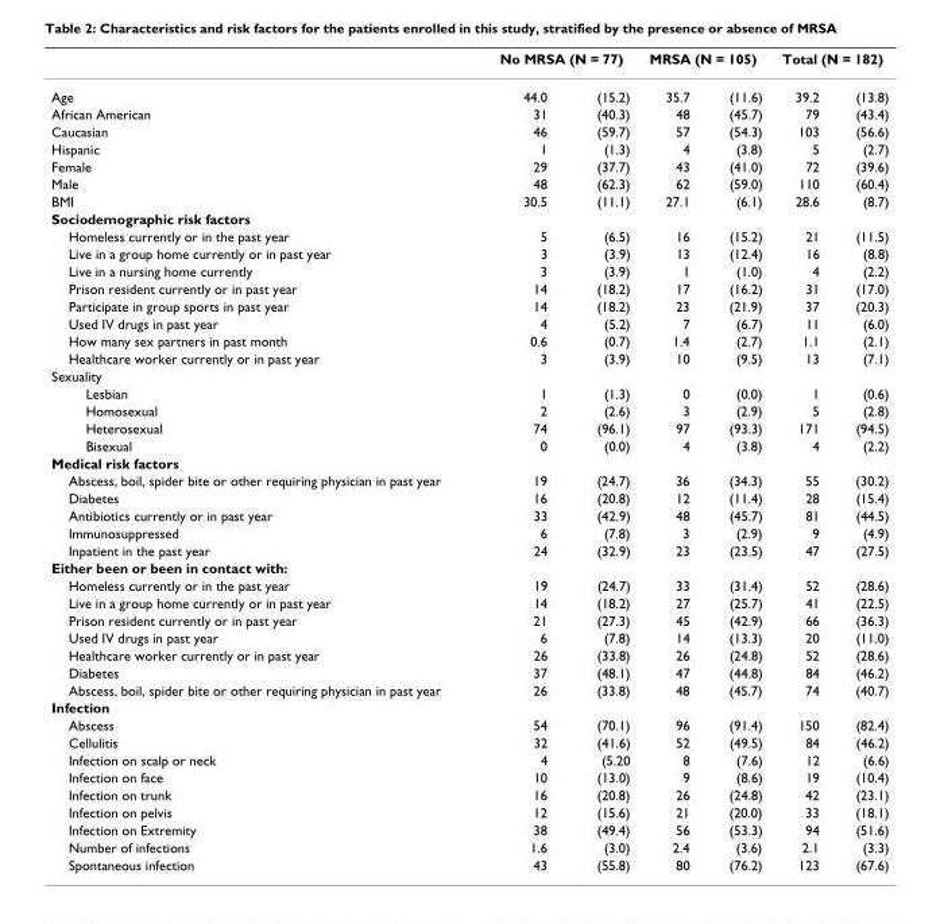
<table><thead><tr><td rowspan="2">Age</td><td colspan="2">No MRSA (N = 77)</td><td colspan="2">MRSA (N = 105)</td><td colspan="2">Total (N = 182)</td></tr><tr><td>44.0</td><td>(15.2)</td><td>35.7</td><td>(11.6)</td><td>39.2</td><td>(13.8)</td></tr></thead><tbody><tr><td>African American</td><td>31</td><td>(40.3)</td><td>48</td><td>(45.7)</td><td>79</td><td>(43.4)</td></tr><tr><td>Caucasian</td><td>46</td><td>(59.7)</td><td>57</td><td>(54.3)</td><td>103</td><td>(56.6)</td></tr><tr><td>Hispanic</td><td>1</td><td>(1.3)</td><td>4</td><td>(3.8)</td><td>5</td><td>(2.7)</td></tr><tr><td>Female</td><td>29</td><td>(37.7)</td><td>43</td><td>(41.0)</td><td>72</td><td>(39.6)</td></tr><tr><td>Male</td><td>48</td><td>(62.3)</td><td>62</td><td>(59.0)</td><td>110</td><td>(60.4)</td></tr><tr><td>BMI</td><td>30.5</td><td>(11.1)</td><td>27.1</td><td>(6.1)</td><td>28.6</td><td>(8.7)</td></tr><tr><td colspan="7">Sociodemographic risk factors</td></tr><tr><td>Homeless currently or in the past year</td><td>5</td><td>(6.5)</td><td>16</td><td>(15.2)</td><td>21</td><td>(11.5)</td></tr><tr><td>Live in a group home currently or in past year</td><td>3</td><td>(3.9)</td><td>13</td><td>(12.4)</td><td>16</td><td>(8.8)</td></tr><tr><td>Live in a nursing home currently</td><td>3</td><td>(3.9)</td><td>1</td><td>(1.0)</td><td>4</td><td>(2.2)</td></tr><tr><td>Prison resident currently or in past year</td><td>14</td><td>(18.2)</td><td>17</td><td>(16.2)</td><td>31</td><td>(17.0)</td></tr><tr><td>Participate in group sports in past year</td><td>14</td><td>(18.2)</td><td>23</td><td>(21.9)</td><td>37</td><td>(20.3)</td></tr><tr><td>Used IV drugs in past year</td><td>4</td><td>(5.2)</td><td>7</td><td>(6.7)</td><td>11</td><td>(6.0)</td></tr><tr><td>How many sex partners in past month</td><td>0.6</td><td>(0.7)</td><td>1.4</td><td>(2.7)</td><td>1.1</td><td>(2.1)</td></tr><tr><td>Healthcare worker currently or in past year</td><td>3</td><td>(3.9)</td><td>10</td><td>(9.5)</td><td>13</td><td>(7.1)</td></tr><tr><td colspan="7">Sexuality</td></tr><tr><td>Lesbian</td><td>1</td><td>(1.3)</td><td>0</td><td>(0.0)</td><td>1</td><td>(0.6)</td></tr><tr><td>Homosexual</td><td>2</td><td>(2.6)</td><td>3</td><td>(2.9)</td><td>5</td><td>(2.8)</td></tr><tr><td>Heterosexual</td><td>74</td><td>(96.1)</td><td>97</td><td>(93.3)</td><td>171</td><td>(94.5)</td></tr><tr><td>Bisexual</td><td>0</td><td>(0.0)</td><td>4</td><td>(3.8)</td><td>4</td><td>(2.2)</td></tr><tr><td colspan="7">Medical risk factors</td></tr><tr><td>Abscess, boil, spider bite or other requiring physician in past year</td><td>19</td><td>(24.7)</td><td>36</td><td>(34.3)</td><td>55</td><td>(30.2)</td></tr><tr><td>Diabetes</td><td>16</td><td>(20.8)</td><td>12</td><td>(11.4)</td><td>28</td><td>(15.4)</td></tr><tr><td>Antibiotics currently or in past year</td><td>33</td><td>(42.9)</td><td>48</td><td>(45.7)</td><td>81</td><td>(44.5)</td></tr><tr><td>Immunosuppressed</td><td>6</td><td>(7.8)</td><td>3</td><td>(2.9)</td><td>9</td><td>(4.9)</td></tr><tr><td>Inpatient in the past year</td><td>24</td><td>(32.9)</td><td>23</td><td>(23.5)</td><td>47</td><td>(27.5)</td></tr><tr><td colspan="7">Either been or been in contact with:</td></tr><tr><td>Homeless currently or in the past year</td><td>19</td><td>(24.7)</td><td>33</td><td>(31.4)</td><td>52</td><td>(28.6)</td></tr><tr><td>Live in a group home currently or in past year</td><td>14</td><td>(18.2)</td><td>27</td><td>(25.7)</td><td>41</td><td>(22.5)</td></tr><tr><td>Prison resident currently or in past year</td><td>21</td><td>(27.3)</td><td>45</td><td>(42.9)</td><td>66</td><td>(36.3)</td></tr><tr><td>Used IV drugs in past year</td><td>6</td><td>(7.8)</td><td>14</td><td>(13.3)</td><td>20</td><td>(11.0)</td></tr><tr><td>Healthcare worker currently or in past year</td><td>26</td><td>(33.8)</td><td>26</td><td>(24.8)</td><td>52</td><td>(28.6)</td></tr><tr><td>Diabetes</td><td>37</td><td>(48.1)</td><td>47</td><td>(44.8)</td><td>84</td><td>(46.2)</td></tr><tr><td>Abscess, boil, spider bite or other requiring physician in past year</td><td>26</td><td>(33.8)</td><td>48</td><td>(45.7)</td><td>74</td><td>(40.7)</td></tr><tr><td colspan="7">Infection</td></tr><tr><td>Abscess</td><td>54</td><td>(70.1)</td><td>96</td><td>(91.4)</td><td>150</td><td>(82.4)</td></tr><tr><td>Cellulitis</td><td>32</td><td>(41.6)</td><td>52</td><td>(49.5)</td><td>84</td><td>(46.2)</td></tr><tr><td>Infection on scalp or neck</td><td>4</td><td>(5.20</td><td>8</td><td>(7.6)</td><td>12</td><td>(6.6)</td></tr><tr><td>Infection on face</td><td>10</td><td>(13.0)</td><td>9</td><td>(8.6)</td><td>19</td><td>(10.4)</td></tr><tr><td>Infection on trunk</td><td>16</td><td>(20.8)</td><td>26</td><td>(24.8)</td><td>42</td><td>(23.1)</td></tr><tr><td>Infection on pelvis</td><td>12</td><td>(15.6)</td><td>21</td><td>(20.0)</td><td>33</td><td>(18.1)</td></tr><tr><td>Infection on Extremity</td><td>38</td><td>(49.4)</td><td>56</td><td>(53.3)</td><td>94</td><td>(51.6)</td></tr><tr><td>Number of infections</td><td>1.6</td><td>(3.0)</td><td>2.4</td><td>(3.6)</td><td>2.1</td><td>(3.3)</td></tr><tr><td>Spontaneous infection</td><td>43</td><td>(55.8)</td><td>80</td><td>(76.2)</td><td>123</td><td>(67.6)</td></tr></tbody></table>